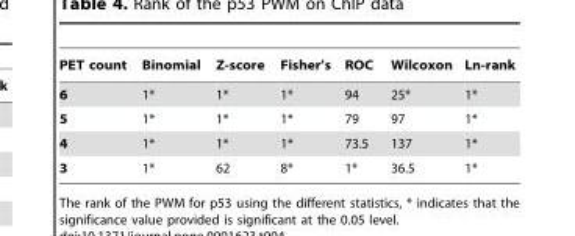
<table><thead><tr><td>PET count</td><td>Binomial</td><td>Z-score</td><td>Fisher’s</td><td>ROC</td><td>Wilcoxon</td><td>Ln-rank</td></tr></thead><tbody><tr><td>6</td><td>1*</td><td>1*</td><td>1*</td><td>94</td><td>25*</td><td>1*</td></tr><tr><td>5</td><td>1*</td><td>1*</td><td>1*</td><td>79</td><td>97</td><td>1*</td></tr><tr><td>4</td><td>1*</td><td>1*</td><td>1*</td><td>73.5</td><td>137</td><td>1*</td></tr><tr><td>3</td><td>1*</td><td>62</td><td>8*</td><td>1*</td><td>36.5</td><td>1*</td></tr></tbody></table>